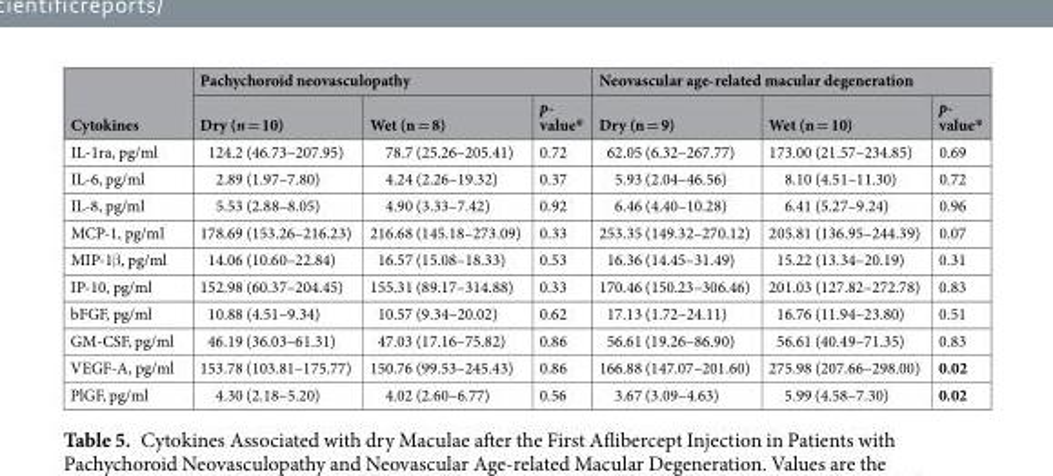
<table><thead><tr><td rowspan="2">Cytokines</td><td colspan="3">Pachychoroid neovasculopathy</td><td colspan="3">Neovascular age-related macular degeneration</td></tr><tr><td>Dry (n = 10)</td><td>Wet (n = 8)</td><td>p- value*</td><td>Dry (n = 9)</td><td>Wet (n = 10)</td><td>p- value*</td></tr></thead><tbody><tr><td>IL-1ra, pg/ml</td><td>124.2 (46.73–207.95)</td><td>78.7 (25.26–205.41)</td><td>0.72</td><td>62.05 (6.32–267.77)</td><td>173.00 (21.57–234.85)</td><td>0.69</td></tr><tr><td>IL-6, pg/ml</td><td>2.89 (1.97–7.80)</td><td>4.24 (2.26–19.32)</td><td>0.37</td><td>5.93 (2.04–46.56)</td><td>8.10 (4.51–11.30)</td><td>0.72</td></tr><tr><td>IL-8, pg/ml</td><td>5.53 (2.88–8.05)</td><td>4.90 (3.33–7.42)</td><td>0.92</td><td>6.46 (4.40–10.28)</td><td>6.41 (5.27–9.24)</td><td>0.96</td></tr><tr><td>MCP-1, pg/ml</td><td>178.69 (153.26–216.23)</td><td>216.68 (145.18–273.09)</td><td>0.33</td><td>253.35 (149.32–270.12)</td><td>205.81 (136.95–244.39)</td><td>0.07</td></tr><tr><td>MIP-1β, pg/ml</td><td>14.06 (10.60–22.84)</td><td>16.57 (15.08–18.33)</td><td>0.53</td><td>16.36 (14.45–31.49)</td><td>15.22 (13.34–20.19)</td><td>0.31</td></tr><tr><td>IP-10, pg/ml</td><td>152.98 (60.37–204.45)</td><td>155.31 (89.17–314.88)</td><td>0.33</td><td>170.46 (150.23–306.46)</td><td>201.03 (127.82–272.78)</td><td>0.83</td></tr><tr><td>bFGF, pg/ml</td><td>10.88 (4.51–9.34)</td><td>10.57 (9.34–20.02)</td><td>0.62</td><td>17.13 (1.72–24.11)</td><td>16.76 (11.94–23.80)</td><td>0.51</td></tr><tr><td>GM-CSF, pg/ml</td><td>46.19 (36.03–61.31)</td><td>47.03 (17.16–75.82)</td><td>0.86</td><td>56.61 (19.26–86.90)</td><td>56.61 (40.49–71.35)</td><td>0.83</td></tr><tr><td>VEGF-A, pg/ml</td><td>153.78 (103.81–175.77)</td><td>150.76 (99.53–245.43)</td><td>0.86</td><td>166.88 (147.07–201.60)</td><td>275.98 (207.66–298.00)</td><td>0.02</td></tr><tr><td>PlGF, pg/ml</td><td>4.30 (2.18–5.20)</td><td>4.02 (2.60–6.77)</td><td>0.56</td><td>3.67 (3.09–4.63)</td><td>5.99 (4.58–7.30)</td><td>0.02</td></tr></tbody></table>